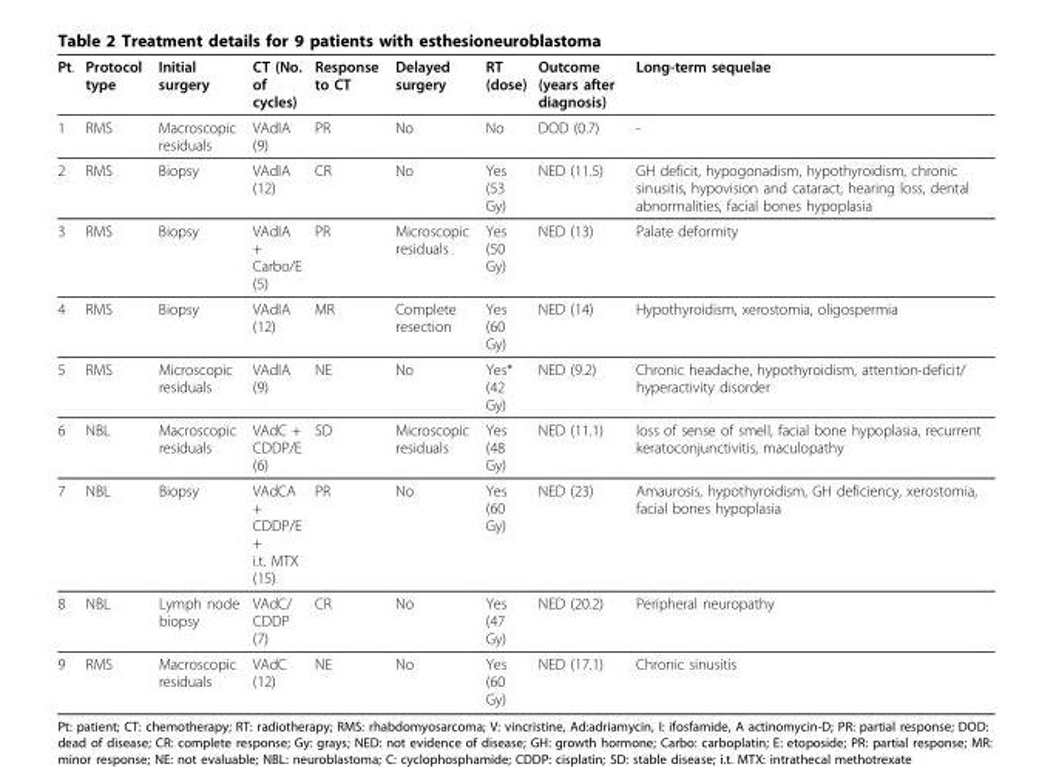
<table><thead><tr><td>Pt.</td><td>Protocol type</td><td>Initial surgery</td><td>CT (No. of cycles)</td><td>Response to CT</td><td>Delayed surgery</td><td>RT (dose)</td><td>Outcome (years after diagnosis)</td><td>Long-term sequelae</td></tr></thead><tbody><tr><td>1</td><td>RMS</td><td>Macroscopic residuals</td><td>VAdIA (9)</td><td>PR</td><td>No</td><td>No</td><td>DOD (0.7)</td><td>-</td></tr><tr><td>2</td><td>RMS</td><td>Biopsy</td><td>VAdIA (12)</td><td>CR</td><td>No</td><td>Yes (53 Gy)</td><td>NED (11.5)</td><td>GH deficit, hypogonadism, hypothyroidism, chronic sinusitis, hypovision and cataract, hearing loss, dental abnormalities, facial bones hypoplasia</td></tr><tr><td>3</td><td>RMS</td><td>Biopsy</td><td>VAdIA + Carbo/E (5)</td><td>PR</td><td>Microscopic residuals</td><td>Yes (50 Gy)</td><td>NED (13)</td><td>Palate deformity</td></tr><tr><td>4</td><td>RMS</td><td>Biopsy</td><td>VAdIA (12)</td><td>MR</td><td>Complete resection</td><td>Yes (60 Gy)</td><td>NED (14)</td><td>Hypothyroidism, xerostomia, oligospermia</td></tr><tr><td>5</td><td>RMS</td><td>Microscopic residuals</td><td>VAdIA (9)</td><td>NE</td><td>No</td><td>Yes* (42 Gy)</td><td>NED (9.2)</td><td>Chronic headache, hypothyroidism, attention-deficit/ hyperactivity disorder</td></tr><tr><td>6</td><td>NBL</td><td>Macroscopic residuals</td><td>VAdC + CDDP/E (6)</td><td>SD</td><td>Microscopic residuals</td><td>Yes (48 Gy)</td><td>NED (11.1)</td><td>loss of sense of smell, facial bone hypoplasia, recurrent keratoconjunctivitis, maculopathy</td></tr><tr><td>7</td><td>NBL</td><td>Biopsy</td><td>VAdCA + CDDP/E + i.t. MTX (15)</td><td>PR</td><td>No</td><td>Yes (60 Gy)</td><td>NED (23)</td><td>Amaurosis, hypothyroidism, GH deficiency, xerostomia, facial bones hypoplasia</td></tr><tr><td>8</td><td>NBL</td><td>Lymph node biopsy</td><td>VAdC/ CDDP (7)</td><td>CR</td><td>No</td><td>Yes (47 Gy)</td><td>NED (20.2)</td><td>Peripheral neuropathy</td></tr><tr><td>9</td><td>RMS</td><td>Macroscopic residuals</td><td>VAdC (12)</td><td>NE</td><td>No</td><td>Yes (60 Gy)</td><td>NED (17.1)</td><td>Chronic sinusitis</td></tr></tbody></table>